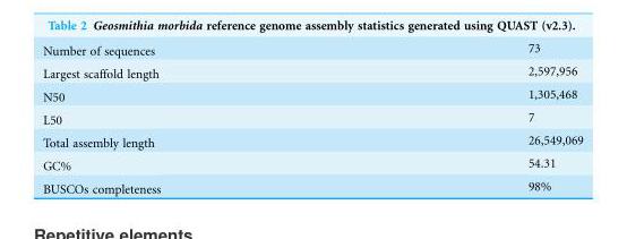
<table><tbody><tr><td>Number of sequences</td><td>73</td></tr><tr><td>Largest scaffold length</td><td>2,597,956</td></tr><tr><td>N50</td><td>1,305,468</td></tr><tr><td>L50</td><td>7</td></tr><tr><td>Total assembly length</td><td>26,549,069</td></tr><tr><td>GC%</td><td>54.31</td></tr><tr><td>BUSCOs completeness</td><td>98%</td></tr></tbody></table>